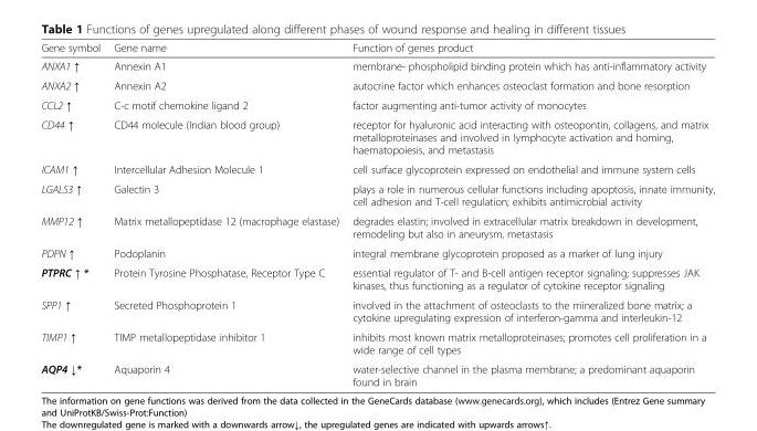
<table><thead><tr><td>Gene symbol</td><td>Gene name</td><td>Function of genes product</td></tr></thead><tbody><tr><td>ANXA1 ↑</td><td>Annexin A1</td><td>membrane- phospholipid binding protein which has anti-inflammatory activity</td></tr><tr><td>ANXA2 ↑</td><td>Annexin A2</td><td>autocrine factor which enhances osteoclast formation and bone resorption</td></tr><tr><td>CCL2 ↑</td><td>C-c motif chemokine ligand 2</td><td>factor augmenting anti-tumor activity of monocytes</td></tr><tr><td>CD44 ↑</td><td>CD44 molecule (Indian blood group)</td><td>receptor for hyaluronic acid interacting with osteopontin, collagens, and matrix metalloproteinases and involved in lymphocyte activation and homing, haematopoiesis, and metastasis</td></tr><tr><td>ICAM1 ↑</td><td>Intercellular Adhesion Molecule 1</td><td>cell surface glycoprotein expressed on endothelial and immune system cells</td></tr><tr><td>LGALS3 ↑</td><td>Galectin 3</td><td>plays a role in numerous cellular functions including apoptosis, innate immunity, cell adhesion and T-cell regulation; exhibits antimicrobial activity</td></tr><tr><td>MMP12 ↑</td><td>Matrix metallopeptidase 12 (macrophage elastase)</td><td>degrades elastin; involved in extracellular matrix breakdown in development, remodeling but also in aneurysm, metastasis</td></tr><tr><td>PDPN ↑</td><td>Podoplanin</td><td>integral membrane glycoprotein proposed as a marker of lung injury</td></tr><tr><td>PTPRC ↑ *</td><td>Protein Tyrosine Phosphatase, Receptor Type C</td><td>essential regulator of T- and B-cell antigen receptor signaling; suppresses JAK kinases, thus functioning as a regulator of cytokine receptor signaling</td></tr><tr><td>SPP1 ↑</td><td>Secreted Phosphoprotein 1</td><td>involved in the attachment of osteoclasts to the mineralized bone matrix; a cytokine upregulating expression of interferon-gamma and interleukin-12</td></tr><tr><td>TIMP1 ↑</td><td>TIMP metallopeptidase inhibitor 1</td><td>inhibits most known matrix metalloproteinases; promotes cell proliferation in a wide range of cell types</td></tr><tr><td>AQP4 ↓*</td><td>Aquaporin 4</td><td>water-selective channel in the plasma membrane; a predominant aquaporin found in brain</td></tr></tbody></table>